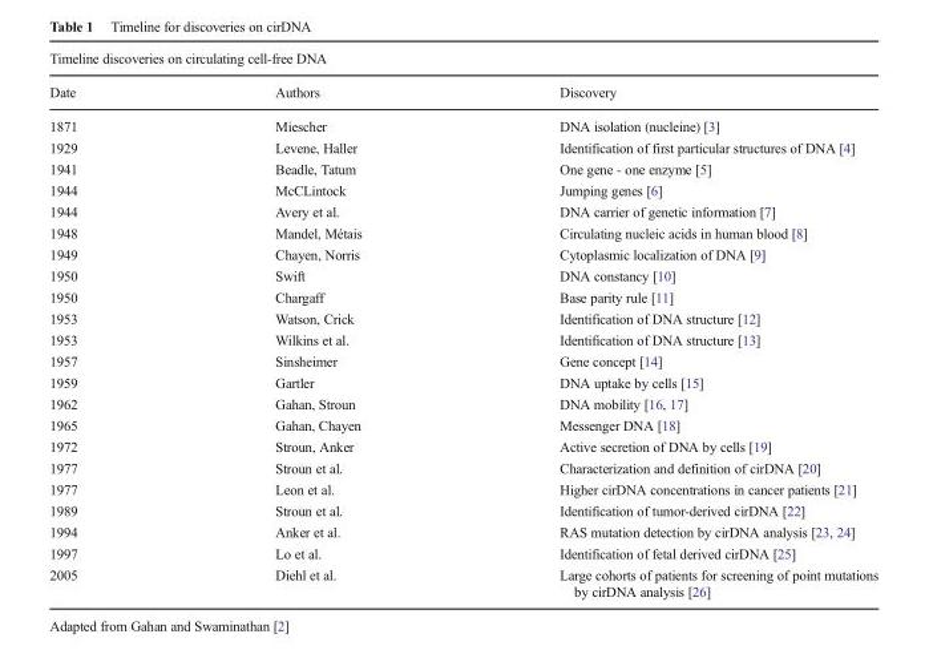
<table><thead><tr><td colspan="3">Timeline discoveries on circulating cell-free DNA</td></tr><tr><td>Date</td><td>Authors</td><td>Discovery</td></tr></thead><tbody><tr><td>1871</td><td>Miescher</td><td>DNA isolation (nucleine) [3]</td></tr><tr><td>1929</td><td>Levene, Haller</td><td>Identification of first particular structures of DNA [4]</td></tr><tr><td>1941</td><td>Beadle, Tatum</td><td>One gene - one enzyme [5]</td></tr><tr><td>1944</td><td>McCLintock</td><td>Jumping genes [6]</td></tr><tr><td>1944</td><td>Avery et al.</td><td>DNA carrier of genetic information [7]</td></tr><tr><td>1948</td><td>Mandel, Métais</td><td>Circulating nucleic acids in human blood [8]</td></tr><tr><td>1949</td><td>Chayen, Norris</td><td>Cytoplasmic localization of DNA [9]</td></tr><tr><td>1950</td><td>Swift</td><td>DNA constancy [10]</td></tr><tr><td>1950</td><td>Chargaff</td><td>Base parity rule [11]</td></tr><tr><td>1953</td><td>Watson, Crick</td><td>Identification of DNA structure [12]</td></tr><tr><td>1953</td><td>Wilkins et al.</td><td>Identification of DNA structure [13]</td></tr><tr><td>1957</td><td>Sinsheimer</td><td>Gene concept [14]</td></tr><tr><td>1959</td><td>Gartler</td><td>DNA uptake by cells [15]</td></tr><tr><td>1962</td><td>Gahan, Stroun</td><td>DNA mobility [16, 17]</td></tr><tr><td>1965</td><td>Gahan, Chayen</td><td>Messenger DNA [18]</td></tr><tr><td>1972</td><td>Stroun, Anker</td><td>Active secretion of DNA by cells [19]</td></tr><tr><td>1977</td><td>Stroun et al.</td><td>Characterization and definition of cirDNA [20]</td></tr><tr><td>1977</td><td>Leon et al.</td><td>Higher cirDNA concentrations in cancer patients [21]</td></tr><tr><td>1989</td><td>Stroun et al.</td><td>Identification of tumor-derived cirDNA [22]</td></tr><tr><td>1994</td><td>Anker et al.</td><td>RAS mutation detection by cirDNA analysis [23, 24]</td></tr><tr><td>1997</td><td>Lo et al.</td><td>Identification of fetal derived cirDNA [25]</td></tr><tr><td>2005</td><td>Diehl et al.</td><td>Large cohorts of patients for screening of point mutations by cirDNA analysis [26]</td></tr></tbody></table>